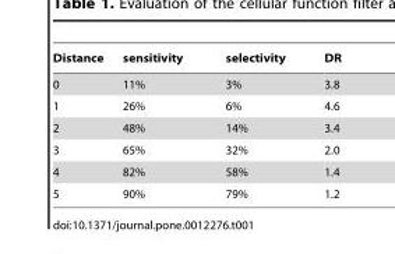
<table><thead><tr><td>Distance</td><td>sensitivity</td><td>selectivity</td><td>DR</td></tr></thead><tbody><tr><td>0</td><td>11%</td><td>3%</td><td>3.8</td></tr><tr><td>1</td><td>26%</td><td>6%</td><td>4.6</td></tr><tr><td>2</td><td>48%</td><td>14%</td><td>3.4</td></tr><tr><td>3</td><td>65%</td><td>32%</td><td>2.0</td></tr><tr><td>4</td><td>82%</td><td>58%</td><td>1.4</td></tr><tr><td>5</td><td>90%</td><td>79%</td><td>1.2</td></tr></tbody></table>